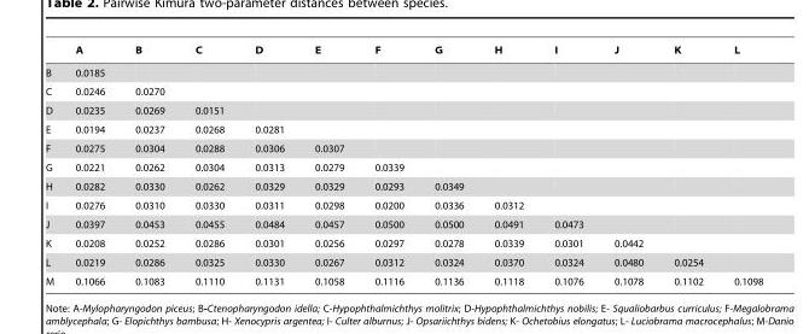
<table><thead><tr><td></td><td>A</td><td>B</td><td>C</td><td>D</td><td>E</td><td>F</td><td>G</td><td>H</td><td>I</td><td>J</td><td>K</td><td>L</td></tr></thead><tbody><tr><td>B</td><td>0.0185</td><td></td><td></td><td></td><td></td><td></td><td></td><td></td><td></td><td></td><td></td><td></td></tr><tr><td>C</td><td>0.0246</td><td>0.0270</td><td></td><td></td><td></td><td></td><td></td><td></td><td></td><td></td><td></td><td></td></tr><tr><td>D</td><td>0.0235</td><td>0.0269</td><td>0.0151</td><td></td><td></td><td></td><td></td><td></td><td></td><td></td><td></td><td></td></tr><tr><td>E</td><td>0.0194</td><td>0.0237</td><td>0.0268</td><td>0.0281</td><td></td><td></td><td></td><td></td><td></td><td></td><td></td><td></td></tr><tr><td>F</td><td>0.0275</td><td>0.0304</td><td>0.0288</td><td>0.0306</td><td>0.0307</td><td></td><td></td><td></td><td></td><td></td><td></td><td></td></tr><tr><td>G</td><td>0.0221</td><td>0.0262</td><td>0.0304</td><td>0.0313</td><td>0.0279</td><td>0.0339</td><td></td><td></td><td></td><td></td><td></td><td></td></tr><tr><td>H</td><td>0.0282</td><td>0.0330</td><td>0.0262</td><td>0.0329</td><td>0.0329</td><td>0.0293</td><td>0.0349</td><td></td><td></td><td></td><td></td><td></td></tr><tr><td>I</td><td>0.0276</td><td>0.0310</td><td>0.0330</td><td>0.0311</td><td>0.0298</td><td>0.0200</td><td>0.0336</td><td>0.0312</td><td></td><td></td><td></td><td></td></tr><tr><td>J</td><td>0.0397</td><td>0.0453</td><td>0.0455</td><td>0.0484</td><td>0.0457</td><td>0.0500</td><td>0.0500</td><td>0.0491</td><td>0.0473</td><td></td><td></td><td></td></tr><tr><td>K</td><td>0.0208</td><td>0.0252</td><td>0.0286</td><td>0.0301</td><td>0.0256</td><td>0.0297</td><td>0.0278</td><td>0.0339</td><td>0.0301</td><td>0.0442</td><td></td><td></td></tr><tr><td>L</td><td>0.0219</td><td>0.0286</td><td>0.0325</td><td>0.0330</td><td>0.0267</td><td>0.0312</td><td>0.0324</td><td>0.0370</td><td>0.0324</td><td>0.0480</td><td>0.0254</td><td></td></tr><tr><td>M</td><td>0.1066</td><td>0.1083</td><td>0.1110</td><td>0.1131</td><td>0.1058</td><td>0.1116</td><td>0.1136</td><td>0.1118</td><td>0.1076</td><td>0.1078</td><td>0.1102</td><td>0.1098</td></tr></tbody></table>